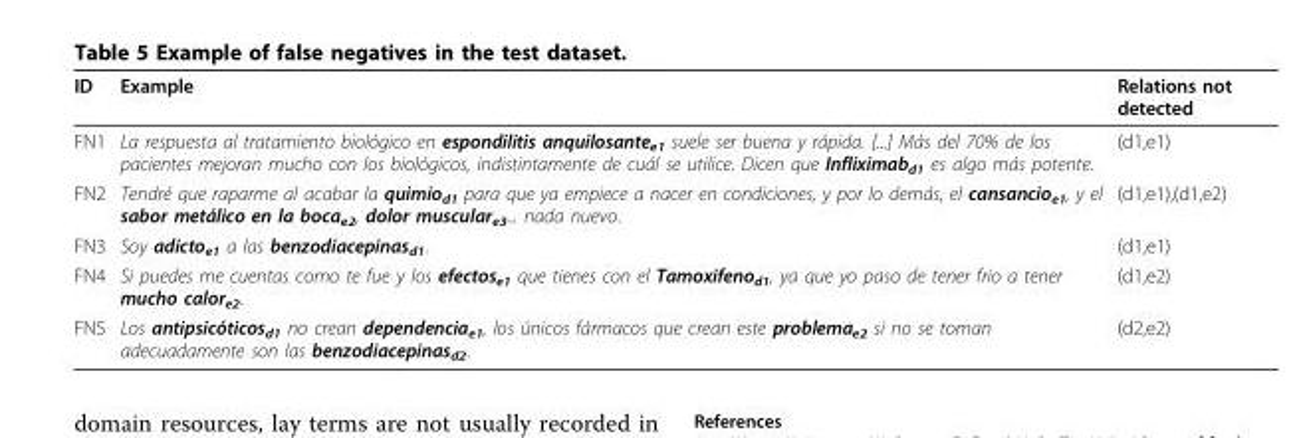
<table><thead><tr><td>ID</td><td>Example</td><td>Relations not detected</td></tr></thead><tbody><tr><td>FN1</td><td>La respuesta al tratamiento biológico en espondilitis anquilosantee1 suele ser buena y rápida. [...] Más del 70% de los pacientes mejoran mucho con los biológicos, indistintamente de cuál se utilice. Dicen que Infliximabd1 es algo más potente.</td><td>(d1,e1)</td></tr><tr><td>FN2</td><td>Tendré que raparme al acabar la quimiod1 para que ya empiece a nacer en condiciones, y por lo demás, el cansancioe1, y el sabor metálico en la bocae2, dolor musculare3... nada nuevo.</td><td>(d1,e1),(d1,e2)</td></tr><tr><td>FN3</td><td>Soy adicto<sub>e1</sub> a las benzodiacepinas<sub>d1</sub>.</td><td>(d1,e1)</td></tr><tr><td>FN4</td><td>Si puedes me cuentas como te fue y los efectos<sub>e1</sub> que tienes con el Tamoxifeno<sub>d1</sub>, ya que yo paso de tener frio a tener mucho calor<sub>e2</sub>.</td><td>(d1,e2)</td></tr><tr><td>FN5</td><td>Los antipsicóticos<sub>d1</sub> no crean dependencia<sub>e1</sub>, los únicos fármacos que crean este problema<sub>e2</sub> si no se toman adecuadamente son las benzodiacepinas<sub>d2</sub>.</td><td>(d2,e2)</td></tr></tbody></table>